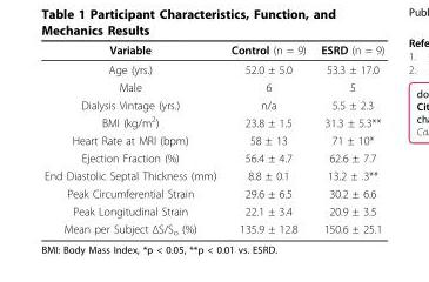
<table><thead><tr><td>Variable</td><td>Control (n = 9)</td><td>ESRD (n = 9)</td></tr></thead><tbody><tr><td>Age (yrs.)</td><td>52.0 ± 5.0</td><td>53.3 ± 17.0</td></tr><tr><td>Male</td><td>6</td><td>5</td></tr><tr><td>Dialysis Vintage (yrs.)</td><td>n/a</td><td>5.5 ± 2.3</td></tr><tr><td>BMI (kg/m<sup>2</sup>)</td><td>23.8 ± 1.5</td><td>31.3 ± 5.3**</td></tr><tr><td>Heart Rate at MRI (bpm)</td><td>58 ± 13</td><td>71 ± 10*</td></tr><tr><td>Ejection Fraction (%)</td><td>56.4 ± 4.7</td><td>62.6 ± 7.7</td></tr><tr><td>End Diastolic Septal Thickness (mm)</td><td>8.8 ± 0.1</td><td>13.2 ± .3**</td></tr><tr><td>Peak Circumferential Strain</td><td>29.6 ± 6.5</td><td>30.2 ± 6.6</td></tr><tr><td>Peak Longitudinal Strain</td><td>22.1 ± 3.4</td><td>20.9 ± 3.5</td></tr><tr><td>Mean per Subject ΔS/S<sub>o</sub> (%)</td><td>135.9 ± 12.8</td><td>150.6 ± 25.1</td></tr></tbody></table>